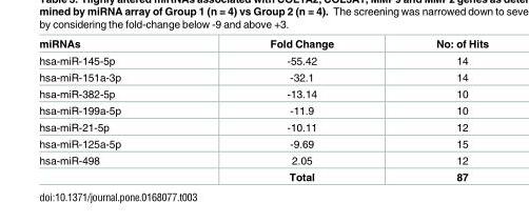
<table><thead><tr><td>miRNAs</td><td>Fold Change</td><td>No: of Hits</td></tr></thead><tbody><tr><td>hsa-miR-145-5p</td><td>-55.42</td><td>14</td></tr><tr><td>hsa-miR-151a-3p</td><td>-32.1</td><td>14</td></tr><tr><td>hsa-miR-382-5p</td><td>-13.14</td><td>10</td></tr><tr><td>hsa-miR-199a-5p</td><td>-11.9</td><td>10</td></tr><tr><td>hsa-miR-21-5p</td><td>-10.11</td><td>12</td></tr><tr><td>hsa-miR-125a-5p</td><td>-9.69</td><td>15</td></tr><tr><td rowspan="2">hsa-miR-498</td><td>2.05</td><td>12</td></tr><tr><td>Total</td><td>87</td></tr></tbody></table>